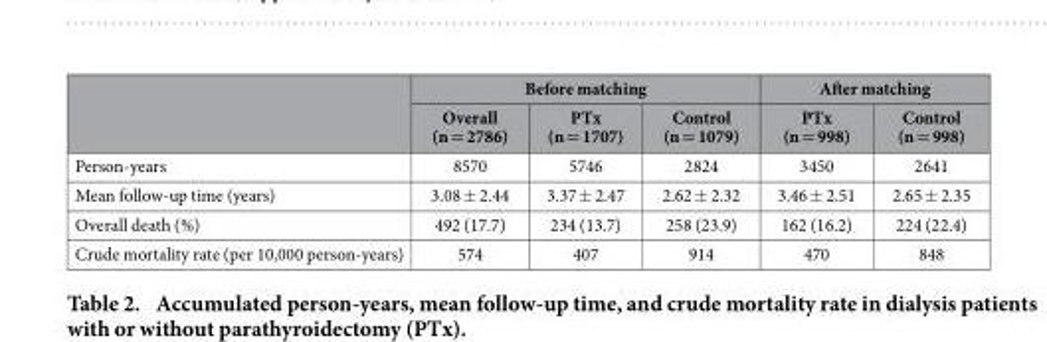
<table><thead><tr><td rowspan="2"></td><td colspan="3">Before matching</td><td colspan="2">After matching</td></tr><tr><td>Overall (n = 2786)</td><td>PTx (n = 1707)</td><td>Control (n = 1079)</td><td>PTx (n = 998)</td><td>Control (n = 998)</td></tr></thead><tbody><tr><td>Person-years</td><td>8570</td><td>5746</td><td>2824</td><td>3450</td><td>2641</td></tr><tr><td>Mean follow-up time (years)</td><td>3.08 ± 2.44</td><td>3.37 ± 2.47</td><td>2.62 ± 2.32</td><td>3.46 ± 2.51</td><td>2.65 ± 2.35</td></tr><tr><td>Overall death (%)</td><td>492 (17.7)</td><td>234 (13.7)</td><td>258 (23.9)</td><td>162 (16.2)</td><td>224 (22.4)</td></tr><tr><td>Crude mortality rate (per 10,000 person-years)</td><td>574</td><td>407</td><td>914</td><td>470</td><td>848</td></tr></tbody></table>